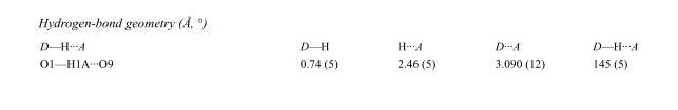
<table><tbody><tr><td>D—H···A</td><td>D—H</td><td>H···A</td><td>D···A</td><td>D—H···A</td></tr><tr><td>O1—H1A···O9</td><td>0.74 (5)</td><td>2.46 (5)</td><td>3.090 (12)</td><td>145 (5)</td></tr></tbody></table>